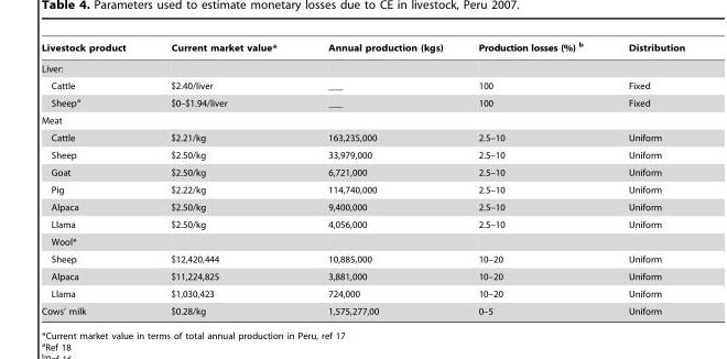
<table><thead><tr><td>Livestock product</td><td>Current market value*</td><td>Annual production (kgs)</td><td>Production losses (%) b</td><td>Distribution</td></tr></thead><tbody><tr><td colspan="5">Liver:</td></tr><tr><td>Cattle</td><td>$2.40/liver</td><td>___</td><td>100</td><td>Fixed</td></tr><tr><td>Sheep<sup>a</sup></td><td>$0–$1.94/liver</td><td>___</td><td>100</td><td>Fixed</td></tr><tr><td colspan="5">Meat</td></tr><tr><td>Cattle</td><td>$2.21/kg</td><td>163,235,000</td><td>2.5–10</td><td>Uniform</td></tr><tr><td>Sheep</td><td>$2.50/kg</td><td>33,979,000</td><td>2.5–10</td><td>Uniform</td></tr><tr><td>Goat</td><td>$2.50/kg</td><td>6,721,000</td><td>2.5–10</td><td>Uniform</td></tr><tr><td>Pig</td><td>$2.22/kg</td><td>114,740,000</td><td>2.5–10</td><td>Uniform</td></tr><tr><td>Alpaca</td><td>$2.50/kg</td><td>9,400,000</td><td>2.5–10</td><td>Uniform</td></tr><tr><td>Llama</td><td>$2.50/kg</td><td>4,056,000</td><td>2.5–10</td><td>Uniform</td></tr><tr><td colspan="5">Wool*</td></tr><tr><td>Sheep</td><td>$12,420,444</td><td>10,885,000</td><td>10–20</td><td>Uniform</td></tr><tr><td>Alpaca</td><td>$11,224,825</td><td>3,881,000</td><td>10–20</td><td>Uniform</td></tr><tr><td>Llama</td><td>$1,030,423</td><td>724,000</td><td>10–20</td><td>Uniform</td></tr><tr><td>Cows’ milk</td><td>$0.28/kg</td><td>1,575,277,00</td><td>0–5</td><td>Uniform</td></tr></tbody></table>